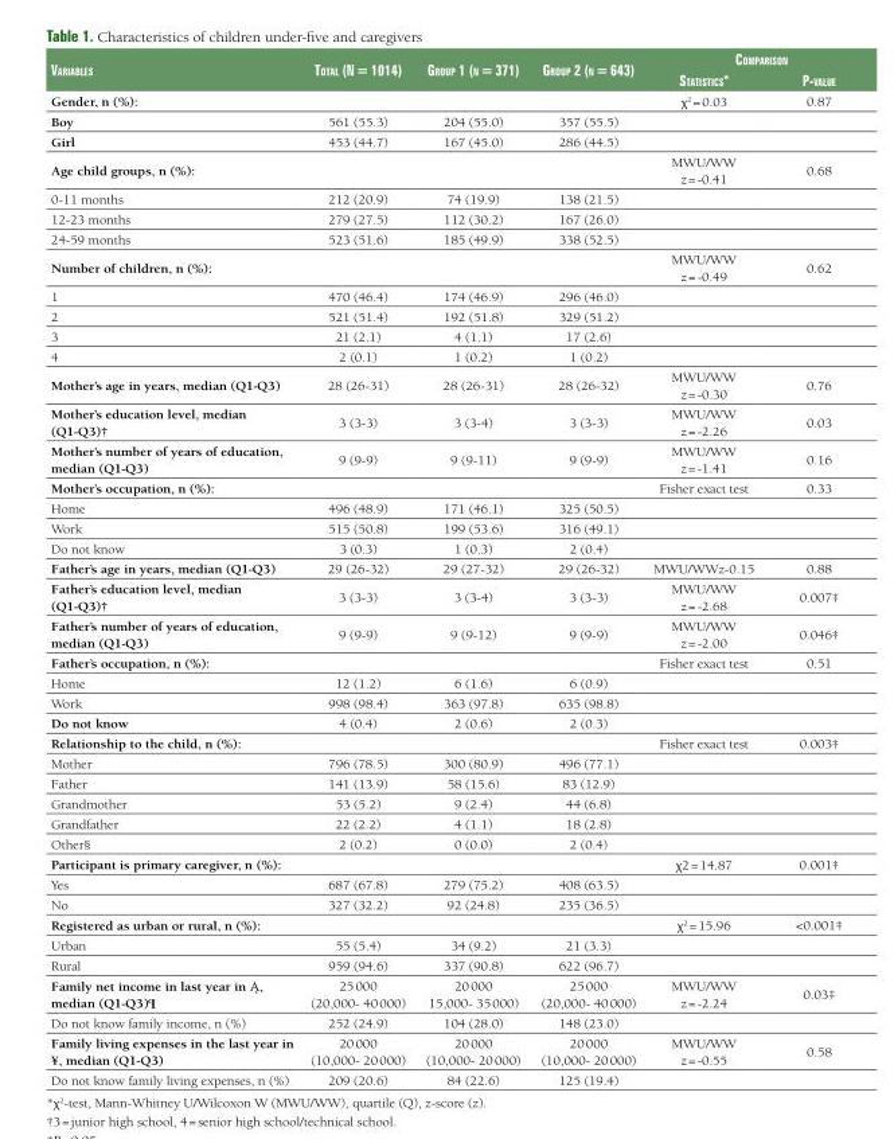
<table><thead><tr><td rowspan="2">Variables</td><td rowspan="2">ToTal (N = 1014)</td><td rowspan="2">Group 1 (N = 371)</td><td rowspan="2">Group 2 (N = 643)</td><td colspan="2">ComparisoN</td></tr><tr><td>sTaTisTiCs*</td><td>p-Value</td></tr></thead><tbody><tr><td>Gender, n (%):</td><td></td><td></td><td></td><td>χ<sup>2</sup> = 0.03</td><td>0.87</td></tr><tr><td>Boy</td><td>561 (55.3)</td><td>204 (55.0)</td><td>357 (55.5)</td><td></td><td></td></tr><tr><td>Girl</td><td>453 (44.7)</td><td>167 (45.0)</td><td>286 (44.5)</td><td></td><td></td></tr><tr><td>Age child groups, n (%):</td><td></td><td></td><td></td><td>MWU/WW z = -0.41</td><td>0.68</td></tr><tr><td>0-11 months</td><td>212 (20.9)</td><td>74 (19.9)</td><td>138 (21.5)</td><td></td><td></td></tr><tr><td>12-23 months</td><td>279 (27.5)</td><td>112 (30.2)</td><td>167 (26.0)</td><td></td><td></td></tr><tr><td>24-59 months</td><td>523 (51.6)</td><td>185 (49.9)</td><td>338 (52.5)</td><td></td><td></td></tr><tr><td>Number of children, n (%):</td><td></td><td></td><td></td><td>MWU/WW z = -0.49</td><td>0.62</td></tr><tr><td>1</td><td>470 (46.4)</td><td>174 (46.9)</td><td>296 (46.0)</td><td></td><td></td></tr><tr><td>2</td><td>521 (51.4)</td><td>192 (51.8)</td><td>329 (51.2)</td><td></td><td></td></tr><tr><td>3</td><td>21 (2.1)</td><td>4 (1.1)</td><td>17 (2.6)</td><td></td><td></td></tr><tr><td>4</td><td>2 (0.1)</td><td>1 (0.2)</td><td>1 (0.2)</td><td></td><td></td></tr><tr><td>Mother’s age in years, median (Q1-Q3)</td><td>28 (26-31)</td><td>28 (26-31)</td><td>28 (26-32)</td><td>MWU/WW z = -0.30</td><td>0.76</td></tr><tr><td>Mother’s education level, median (Q1-Q3)†</td><td>3 (3-3)</td><td>3 (3-4)</td><td>3 (3-3)</td><td>MWU/WW z = -2.26</td><td>0.03</td></tr><tr><td>Mother’s number of years of education, median (Q1-Q3)</td><td>9 (9-9)</td><td>9 (9-11)</td><td>9 (9-9)</td><td>MWU/WW z = -1.41</td><td>0.16</td></tr><tr><td>Mother’s occupation, n (%):</td><td></td><td></td><td></td><td>Fisher exact test</td><td>0.33</td></tr><tr><td>Home</td><td>496 (48.9)</td><td>171 (46.1)</td><td>325 (50.5)</td><td></td><td></td></tr><tr><td>Work</td><td>515 (50.8)</td><td>199 (53.6)</td><td>316 (49.1)</td><td></td><td></td></tr><tr><td>Do not know</td><td>3 (0.3)</td><td>1 (0.3)</td><td>2 (0.4)</td><td></td><td></td></tr><tr><td>Father’s age in years, median (Q1-Q3)</td><td>29 (26-32)</td><td>29 (27-32)</td><td>29 (26-32)</td><td>MWU/WWz-0.15</td><td>0.88</td></tr><tr><td>Father’s education level, median (Q1-Q3)†</td><td>3 (3-3)</td><td>3 (3-4)</td><td>3 (3-3)</td><td>MWU/WW z = -2.68</td><td>0.007‡</td></tr><tr><td>Father’s number of years of education, median (Q1-Q3)</td><td>9 (9-9)</td><td>9 (9-12)</td><td>9 (9-9)</td><td>MWU/WW z = -2.00</td><td>0.046‡</td></tr><tr><td>Father’s occupation, n (%):</td><td></td><td></td><td></td><td>Fisher exact test</td><td>0.51</td></tr><tr><td>Home</td><td>12 (1.2)</td><td>6 (1.6)</td><td>6 (0.9)</td><td></td><td></td></tr><tr><td>Work</td><td>998 (98.4)</td><td>363 (97.8)</td><td>635 (98.8)</td><td></td><td></td></tr><tr><td>Do not know</td><td>4 (0.4)</td><td>2 (0.6)</td><td>2 (0.3)</td><td></td><td></td></tr><tr><td>Relationship to the child, n (%):</td><td></td><td></td><td></td><td>Fisher exact test</td><td>0.003‡</td></tr><tr><td>Mother</td><td>796 (78.5)</td><td>300 (80.9)</td><td>496 (77.1)</td><td></td><td></td></tr><tr><td>Father</td><td>141 (13.9)</td><td>58 (15.6)</td><td>83 (12.9)</td><td></td><td></td></tr><tr><td>Grandmother</td><td>53 (5.2)</td><td>9 (2.4)</td><td>44 (6.8)</td><td></td><td></td></tr><tr><td>Grandfather</td><td>22 (2.2)</td><td>4 (1.1)</td><td>18 (2.8)</td><td></td><td></td></tr><tr><td>Other§</td><td>2 (0.2)</td><td>0 (0.0)</td><td>2 (0.4)</td><td></td><td></td></tr><tr><td>Participant is primary caregiver, n (%):</td><td></td><td></td><td></td><td>χ2 = 14.87</td><td>0.001‡</td></tr><tr><td>Yes</td><td>687 (67.8)</td><td>279 (75.2)</td><td>408 (63.5)</td><td></td><td></td></tr><tr><td>No</td><td>327 (32.2)</td><td>92 (24.8)</td><td>235 (36.5)</td><td></td><td></td></tr><tr><td>Registered as urban or rural, n (%):</td><td></td><td></td><td></td><td>χ<sup>2</sup> = 15.96</td><td>&lt;0.001‡</td></tr><tr><td>Urban</td><td>55 (5.4)</td><td>34 (9.2)</td><td>21 (3.3)</td><td></td><td></td></tr><tr><td>Rural</td><td>959 (94.6)</td><td>337 (90.8)</td><td>622 (96.7)</td><td></td><td></td></tr><tr><td>Family net income in last year in Ą, median (Q1-Q3)¶</td><td>25 000 (20,000- 40 000)</td><td>20 000 15,000- 35 000)</td><td>25 000 (20,000- 40 000)</td><td>MWU/WW z = -2.24</td><td>0.03‡</td></tr><tr><td>Do not know family income, n (%)</td><td>252 (24.9)</td><td>104 (28.0)</td><td>148 (23.0)</td><td></td><td></td></tr><tr><td>Family living expenses in the last year in ¥, median (Q1-Q3)</td><td>20 000 (10,000- 20 000)</td><td>20 000 (10,000- 20 000)</td><td>20 000 (10,000- 20 000)</td><td>MWU/WW z = -0.55</td><td>0.58</td></tr><tr><td>Do not know family living expenses, n (%)</td><td>209 (20.6)</td><td>84 (22.6)</td><td>125 (19.4)</td><td></td><td></td></tr></tbody></table>